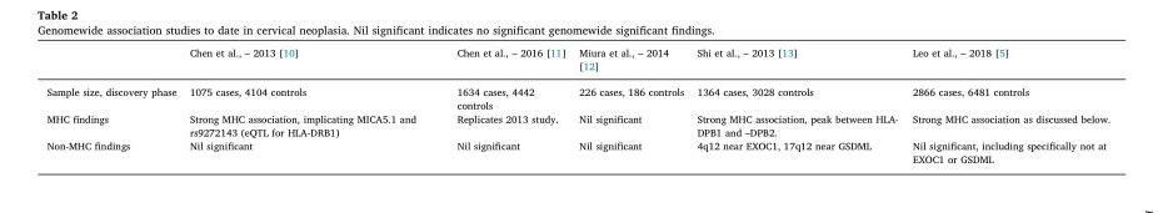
<table><thead><tr><td></td><td>Chen et al., – 2013 [10]</td><td>Chen et al., – 2016 [11]</td><td>Miura et al., – 2014 [12]</td><td>Shi et al., – 2013 [13]</td><td>Leo et al., – 2018 [5]</td></tr></thead><tbody><tr><td>Sample size, discovery phase</td><td>1075 cases, 4104 controls</td><td>1634 cases, 4442 controls</td><td>226 cases, 186 controls</td><td>1364 cases, 3028 controls</td><td>2866 cases, 6481 controls</td></tr><tr><td>MHC findings</td><td>Strong MHC association, implicating MICA5.1 and rs9272143 (eQTL for HLA-DRB1)</td><td>Replicates 2013 study.</td><td>Nil significant</td><td>Strong MHC association, peak between HLA- DPB1 and –DPB2.</td><td>Strong MHC association as discussed below.</td></tr><tr><td>Non-MHC findings</td><td>Nil significant</td><td>Nil significant</td><td>Nil significant</td><td>4q12 near EXOC1, 17q12 near GSDML</td><td>Nil significant, including specifically not at EXOC1 or GSDML</td></tr></tbody></table>